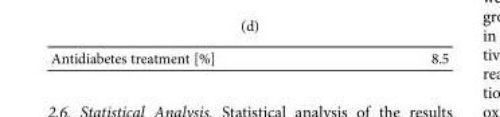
<table><tbody><tr><td>Antidiabetes treatment [%]</td><td>8.5</td></tr></tbody></table>